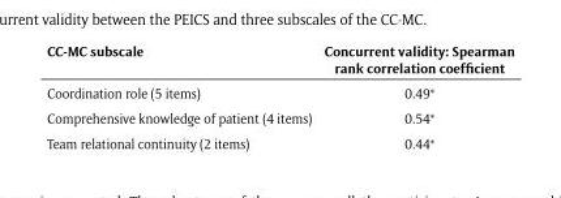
<table><thead><tr><td>CC-MC subscale</td><td>Concurrent validity: Spearman rank correlation coefficient</td></tr></thead><tbody><tr><td>Coordination role (5 items)</td><td>0.49*</td></tr><tr><td>Comprehensive knowledge of patient (4 items)</td><td>0.54*</td></tr><tr><td>Team relational continuity (2 items)</td><td>0.44*</td></tr></tbody></table>